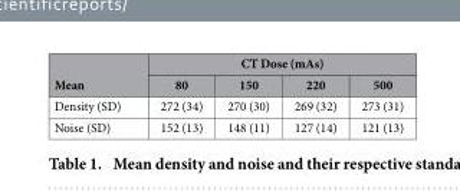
<table><thead><tr><td rowspan="2">Mean</td><td colspan="4">CT Dose (mAs)</td></tr><tr><td>80</td><td>150</td><td>220</td><td>500</td></tr></thead><tbody><tr><td>Density (SD)</td><td>272 (34)</td><td>270 (30)</td><td>269 (32)</td><td>273 (31)</td></tr><tr><td>Noise (SD)</td><td>152 (13)</td><td>148 (11)</td><td>127 (14)</td><td>121 (13)</td></tr></tbody></table>